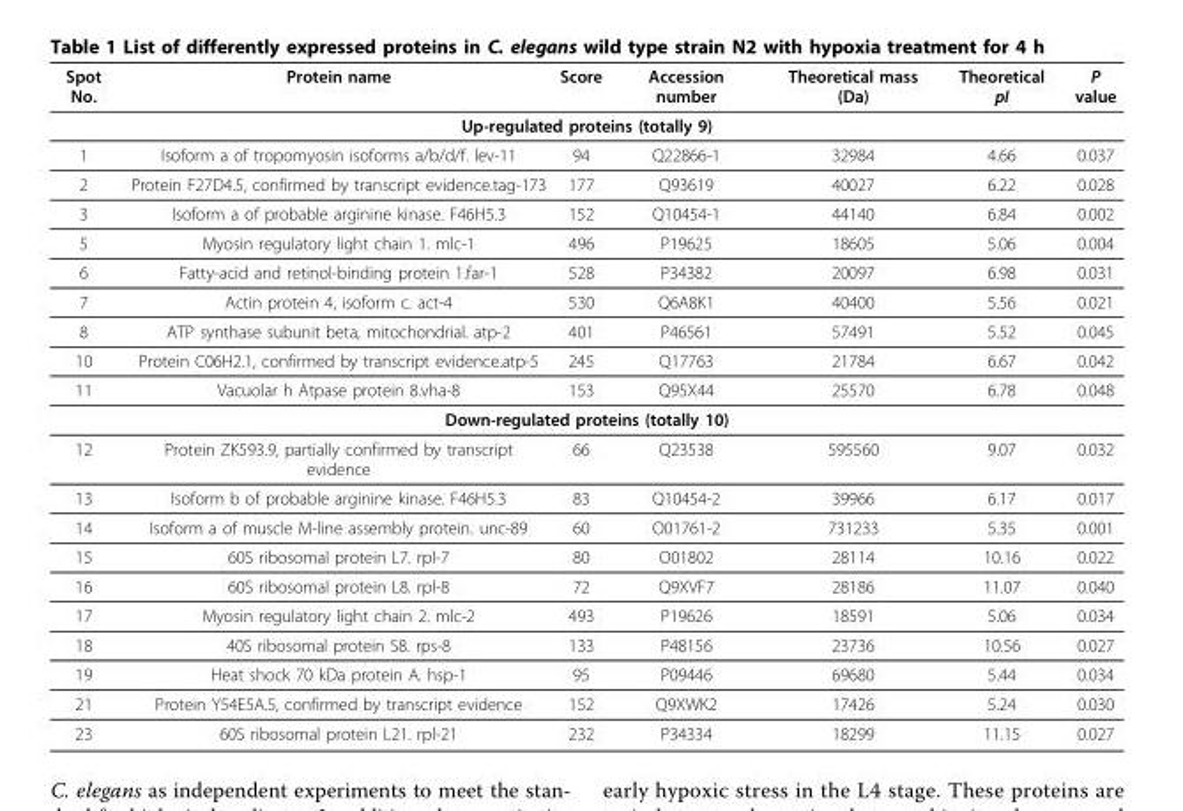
<table><thead><tr><td>Spot No.</td><td>Protein name</td><td>Score</td><td>Accession number</td><td>Theoretical mass (Da)</td><td>Theoretical pI</td><td>P value</td></tr></thead><tbody><tr><td colspan="7">Up-regulated proteins (totally 9)</td></tr><tr><td>1</td><td>Isoform a of tropomyosin isoforms a/b/d/f. lev-11</td><td>94</td><td>Q22866-1</td><td>32984</td><td>4.66</td><td>0.037</td></tr><tr><td>2</td><td>Protein F27D4.5, confirmed by transcript evidence.tag-173</td><td>177</td><td>Q93619</td><td>40027</td><td>6.22</td><td>0.028</td></tr><tr><td>3</td><td>Isoform a of probable arginine kinase. F46H5.3</td><td>152</td><td>Q10454-1</td><td>44140</td><td>6.84</td><td>0.002</td></tr><tr><td>5</td><td>Myosin regulatory light chain 1. mlc-1</td><td>496</td><td>P19625</td><td>18605</td><td>5.06</td><td>0.004</td></tr><tr><td>6</td><td>Fatty-acid and retinol-binding protein 1.far-1</td><td>528</td><td>P34382</td><td>20097</td><td>6.98</td><td>0.031</td></tr><tr><td>7</td><td>Actin protein 4, isoform c. act-4</td><td>530</td><td>Q6A8K1</td><td>40400</td><td>5.56</td><td>0.021</td></tr><tr><td>8</td><td>ATP synthase subunit beta, mitochondrial. atp-2</td><td>401</td><td>P46561</td><td>57491</td><td>5.52</td><td>0.045</td></tr><tr><td>10</td><td>Protein C06H2.1, confirmed by transcript evidence.atp-5</td><td>245</td><td>Q17763</td><td>21784</td><td>6.67</td><td>0.042</td></tr><tr><td>11</td><td>Vacuolar h Atpase protein 8.vha-8</td><td>153</td><td>Q95X44</td><td>25570</td><td>6.78</td><td>0.048</td></tr><tr><td colspan="7">Down-regulated proteins (totally 10)</td></tr><tr><td>12</td><td>Protein ZK593.9, partially confirmed by transcript evidence</td><td>66</td><td>Q23538</td><td>595560</td><td>9.07</td><td>0.032</td></tr><tr><td>13</td><td>Isoform b of probable arginine kinase. F46H5.3</td><td>83</td><td>Q10454-2</td><td>39966</td><td>6.17</td><td>0.017</td></tr><tr><td>14</td><td>Isoform a of muscle M-line assembly protein. unc-89</td><td>60</td><td>O01761-2</td><td>731233</td><td>5.35</td><td>0.001</td></tr><tr><td>15</td><td>60S ribosomal protein L7. rpl-7</td><td>80</td><td>O01802</td><td>28114</td><td>10.16</td><td>0.022</td></tr><tr><td>16</td><td>60S ribosomal protein L8. rpl-8</td><td>72</td><td>Q9XVF7</td><td>28186</td><td>11.07</td><td>0.040</td></tr><tr><td>17</td><td>Myosin regulatory light chain 2. mlc-2</td><td>493</td><td>P19626</td><td>18591</td><td>5.06</td><td>0.034</td></tr><tr><td>18</td><td>40S ribosomal protein S8. rps-8</td><td>133</td><td>P48156</td><td>23736</td><td>10.56</td><td>0.027</td></tr><tr><td>19</td><td>Heat shock 70 kDa protein A. hsp-1</td><td>95</td><td>P09446</td><td>69680</td><td>5.44</td><td>0.034</td></tr><tr><td>21</td><td>Protein Y54E5A.5, confirmed by transcript evidence</td><td>152</td><td>Q9XWK2</td><td>17426</td><td>5.24</td><td>0.030</td></tr><tr><td>23</td><td>60S ribosomal protein L21. rpl-21</td><td>232</td><td>P34334</td><td>18299</td><td>11.15</td><td>0.027</td></tr></tbody></table>